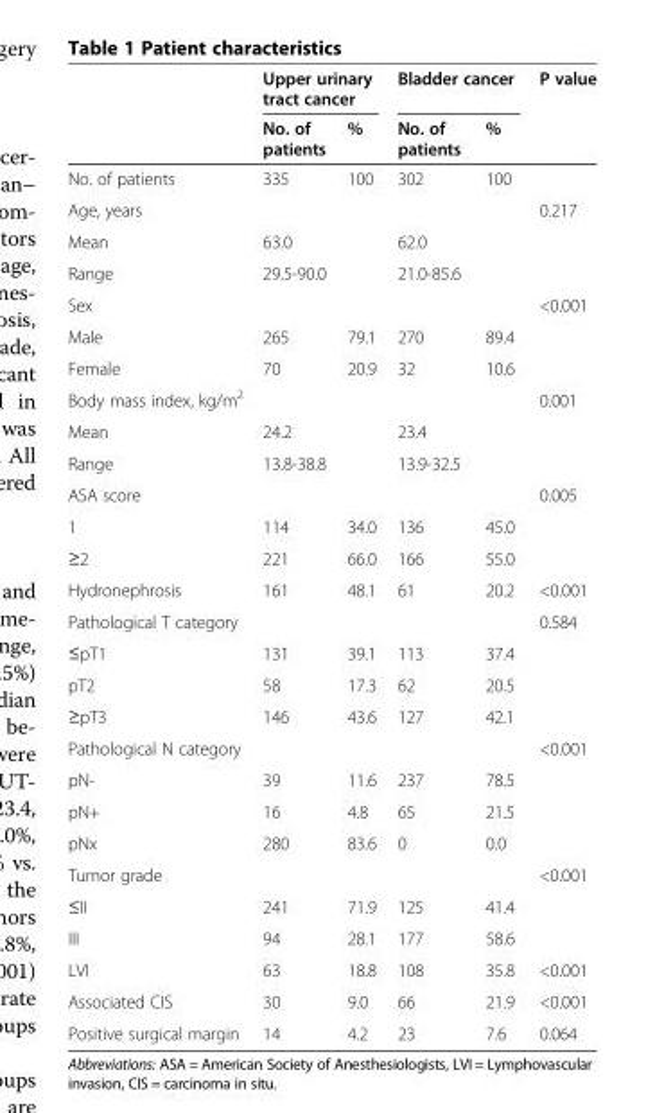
<table><thead><tr><td rowspan="2"></td><td colspan="2">Upper urinary tract cancer</td><td colspan="2">Bladder cancer</td><td rowspan="2">P value</td></tr><tr><td>No. of patients</td><td>%</td><td>No. of patients</td><td>%</td></tr></thead><tbody><tr><td>No. of patients</td><td>335</td><td>100</td><td>302</td><td>100</td><td></td></tr><tr><td>Age, years</td><td></td><td></td><td></td><td></td><td>0.217</td></tr><tr><td>Mean</td><td>63.0</td><td></td><td>62.0</td><td></td><td></td></tr><tr><td>Range</td><td>29.5-90.0</td><td></td><td>21.0-85.6</td><td></td><td></td></tr><tr><td>Sex</td><td></td><td></td><td></td><td></td><td>&lt;0.001</td></tr><tr><td>Male</td><td>265</td><td>79.1</td><td>270</td><td>89.4</td><td></td></tr><tr><td>Female</td><td>70</td><td>20.9</td><td>32</td><td>10.6</td><td></td></tr><tr><td>Body mass index, kg/m<sup>2</sup></td><td></td><td></td><td></td><td></td><td>0.001</td></tr><tr><td>Mean</td><td>24.2</td><td></td><td>23.4</td><td></td><td></td></tr><tr><td>Range</td><td>13.8-38.8</td><td></td><td>13.9-32.5</td><td></td><td></td></tr><tr><td>ASA score</td><td></td><td></td><td></td><td></td><td>0.005</td></tr><tr><td>1</td><td>114</td><td>34.0</td><td>136</td><td>45.0</td><td></td></tr><tr><td>≥2</td><td>221</td><td>66.0</td><td>166</td><td>55.0</td><td></td></tr><tr><td>Hydronephrosis</td><td>161</td><td>48.1</td><td>61</td><td>20.2</td><td>&lt;0.001</td></tr><tr><td>Pathological T category</td><td></td><td></td><td></td><td></td><td>0.584</td></tr><tr><td>≤pT1</td><td>131</td><td>39.1</td><td>113</td><td>37.4</td><td></td></tr><tr><td>pT2</td><td>58</td><td>17.3</td><td>62</td><td>20.5</td><td></td></tr><tr><td>≥pT3</td><td>146</td><td>43.6</td><td>127</td><td>42.1</td><td></td></tr><tr><td>Pathological N category</td><td></td><td></td><td></td><td></td><td>&lt;0.001</td></tr><tr><td>pN-</td><td>39</td><td>11.6</td><td>237</td><td>78.5</td><td></td></tr><tr><td>pN+</td><td>16</td><td>4.8</td><td>65</td><td>21.5</td><td></td></tr><tr><td>pNx</td><td>280</td><td>83.6</td><td>0</td><td>0.0</td><td></td></tr><tr><td>Tumor grade</td><td></td><td></td><td></td><td></td><td>&lt;0.001</td></tr><tr><td>≤II</td><td>241</td><td>71.9</td><td>125</td><td>41.4</td><td></td></tr><tr><td>III</td><td>94</td><td>28.1</td><td>177</td><td>58.6</td><td></td></tr><tr><td>LVI</td><td>63</td><td>18.8</td><td>108</td><td>35.8</td><td>&lt;0.001</td></tr><tr><td>Associated CIS</td><td>30</td><td>9.0</td><td>66</td><td>21.9</td><td>&lt;0.001</td></tr><tr><td>Positive surgical margin</td><td>14</td><td>4.2</td><td>23</td><td>7.6</td><td>0.064</td></tr></tbody></table>